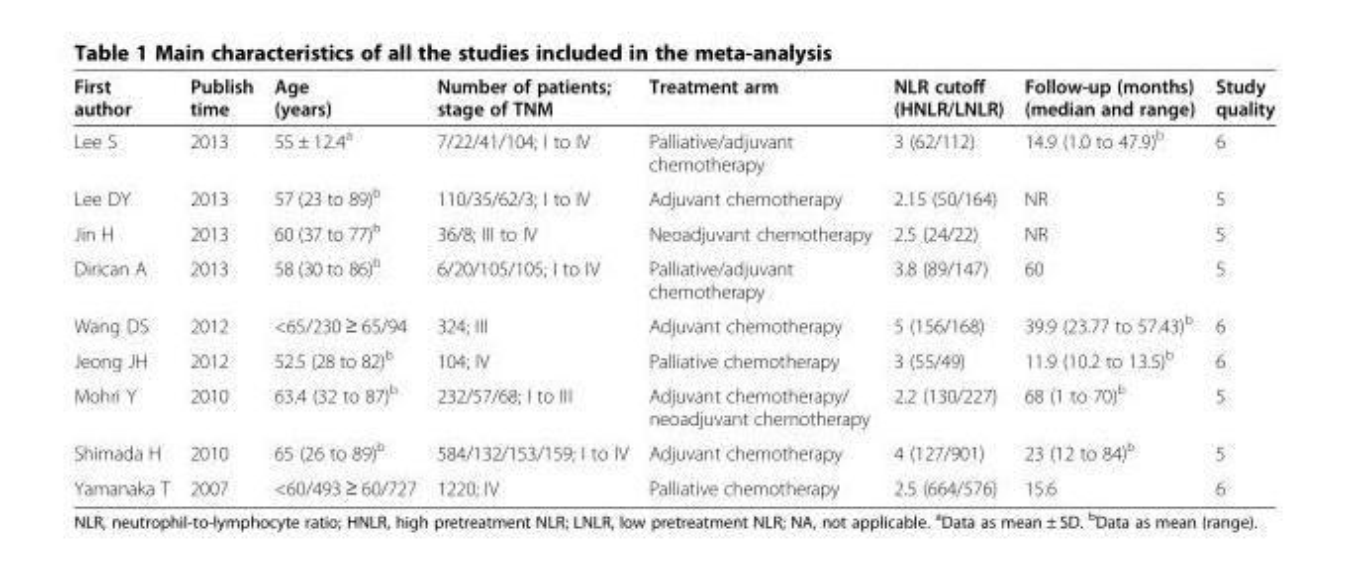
<table><thead><tr><td>First author</td><td>Publish time</td><td>Age (years)</td><td>Number of patients; stage of TNM</td><td>Treatment arm</td><td>NLR cutoff (HNLR/LNLR)</td><td>Follow-up (months) (median and range)</td><td>Study quality</td></tr></thead><tbody><tr><td>Lee S</td><td>2013</td><td>55 ± 12.4<sup>a</sup></td><td>7/22/41/104; I to IV</td><td>Palliative/adjuvant chemotherapy</td><td>3 (62/112)</td><td>14.9 (1.0 to 47.9)<sup>b</sup></td><td>6</td></tr><tr><td>Lee DY</td><td>2013</td><td>57 (23 to 89)<sup>b</sup></td><td>110/35/62/3; I to IV</td><td>Adjuvant chemotherapy</td><td>2.15 (50/164)</td><td>NR</td><td>5</td></tr><tr><td>Jin H</td><td>2013</td><td>60 (37 to 77)<sup>b</sup></td><td>36/8; III to IV</td><td>Neoadjuvant chemotherapy</td><td>2.5 (24/22)</td><td>NR</td><td>5</td></tr><tr><td>Dirican A</td><td>2013</td><td>58 (30 to 86)<sup>b</sup></td><td>6/20/105/105; I to IV</td><td>Palliative/adjuvant chemotherapy</td><td>3.8 (89/147)</td><td>60</td><td>5</td></tr><tr><td>Wang DS</td><td>2012</td><td>&lt;65/230 ≥ 65/94</td><td>324; III</td><td>Adjuvant chemotherapy</td><td>5 (156/168)</td><td>39.9 (23.77 to 57.43)<sup>b</sup></td><td>6</td></tr><tr><td>Jeong JH</td><td>2012</td><td>52.5 (28 to 82)<sup>b</sup></td><td>104; IV</td><td>Palliative chemotherapy</td><td>3 (55/49)</td><td>11.9 (10.2 to 13.5)<sup>b</sup></td><td>6</td></tr><tr><td>Mohri Y</td><td>2010</td><td>63.4 (32 to 87)<sup>b</sup></td><td>232/57/68; I to III</td><td>Adjuvant chemotherapy/ neoadjuvant chemotherapy</td><td>2.2 (130/227)</td><td>68 (1 to 70)<sup>b</sup></td><td>5</td></tr><tr><td>Shimada H</td><td>2010</td><td>65 (26 to 89)<sup>b</sup></td><td>584/132/153/159; I to IV</td><td>Adjuvant chemotherapy</td><td>4 (127/901)</td><td>23 (12 to 84)<sup>b</sup></td><td>5</td></tr><tr><td>Yamanaka T</td><td>2007</td><td>&lt;60/493 ≥ 60/727</td><td>1220; IV</td><td>Palliative chemotherapy</td><td>2.5 (664/576)</td><td>15.6</td><td>6</td></tr></tbody></table>